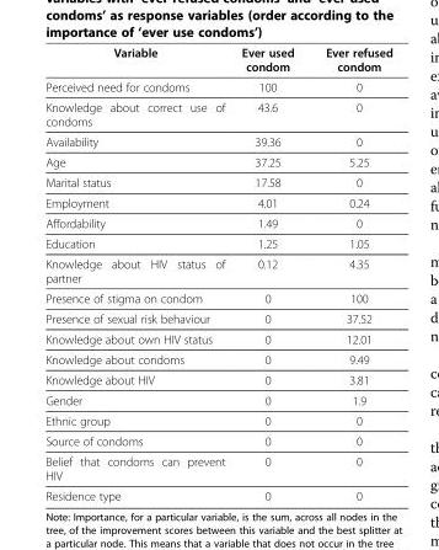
<table><thead><tr><td>Variable</td><td>Ever used condom</td><td>Ever refused condom</td></tr></thead><tbody><tr><td>Perceived need for condoms</td><td>100</td><td>0</td></tr><tr><td>Knowledge about correct use of condoms</td><td>43.6</td><td>0</td></tr><tr><td>Availability</td><td>39.36</td><td>0</td></tr><tr><td>Age</td><td>37.25</td><td>5.25</td></tr><tr><td>Marital status</td><td>17.58</td><td>0</td></tr><tr><td>Employment</td><td>4.01</td><td>0.24</td></tr><tr><td>Affordability</td><td>1.49</td><td>0</td></tr><tr><td>Education</td><td>1.25</td><td>1.05</td></tr><tr><td>Knowledge about HIV status of partner</td><td>0.12</td><td>4.35</td></tr><tr><td>Presence of stigma on condom</td><td>0</td><td>100</td></tr><tr><td>Presence of sexual risk behaviour</td><td>0</td><td>37.52</td></tr><tr><td>Knowledge about own HIV status</td><td>0</td><td>12.01</td></tr><tr><td>Knowledge about condoms</td><td>0</td><td>9.49</td></tr><tr><td>Knowledge about HIV</td><td>0</td><td>3.81</td></tr><tr><td>Gender</td><td>0</td><td>1.9</td></tr><tr><td>Ethnic group</td><td>0</td><td>0</td></tr><tr><td>Source of condoms</td><td>0</td><td>0</td></tr><tr><td>Belief that condoms can prevent HIV</td><td>0</td><td>0</td></tr><tr><td>Residence type</td><td>0</td><td>0</td></tr></tbody></table>